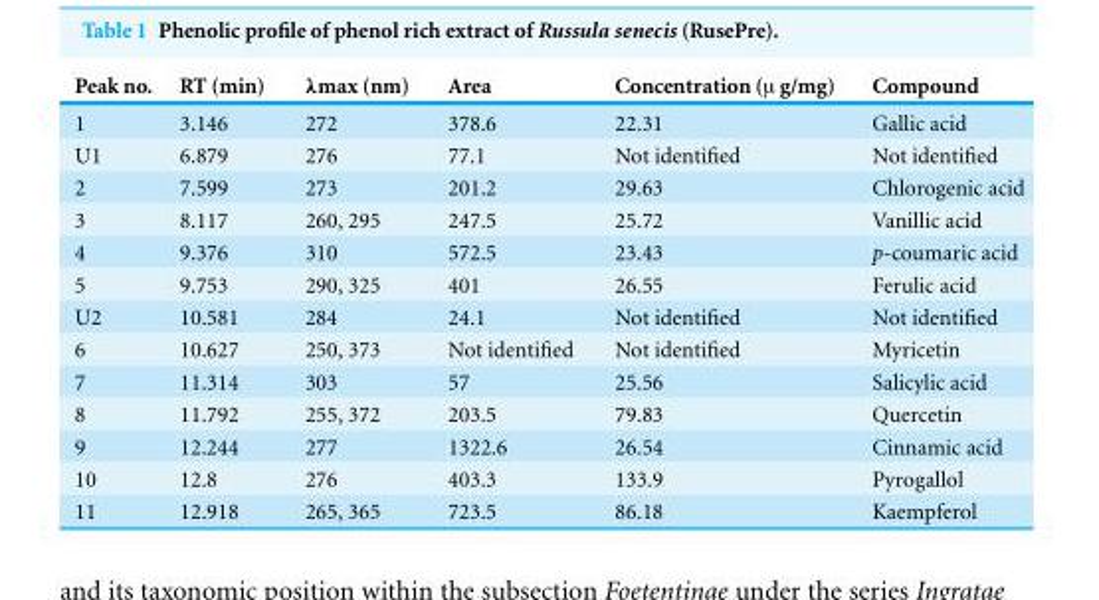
<table><thead><tr><td>Peak no.</td><td>RT (min)</td><td>λmax (nm)</td><td>Area</td><td>Concentration (µ g/mg)</td><td>Compound</td></tr></thead><tbody><tr><td>1</td><td>3.146</td><td>272</td><td>378.6</td><td>22.31</td><td>Gallic acid</td></tr><tr><td>U1</td><td>6.879</td><td>276</td><td>77.1</td><td>Not identified</td><td>Not identified</td></tr><tr><td>2</td><td>7.599</td><td>273</td><td>201.2</td><td>29.63</td><td>Chlorogenic acid</td></tr><tr><td>3</td><td>8.117</td><td>260, 295</td><td>247.5</td><td>25.72</td><td>Vanillic acid</td></tr><tr><td>4</td><td>9.376</td><td>310</td><td>572.5</td><td>23.43</td><td>p-coumaric acid</td></tr><tr><td>5</td><td>9.753</td><td>290, 325</td><td>401</td><td>26.55</td><td>Ferulic acid</td></tr><tr><td>U2</td><td>10.581</td><td>284</td><td>24.1</td><td>Not identified</td><td>Not identified</td></tr><tr><td>6</td><td>10.627</td><td>250, 373</td><td>Not identified</td><td>Not identified</td><td>Myricetin</td></tr><tr><td>7</td><td>11.314</td><td>303</td><td>57</td><td>25.56</td><td>Salicylic acid</td></tr><tr><td>8</td><td>11.792</td><td>255, 372</td><td>203.5</td><td>79.83</td><td>Quercetin</td></tr><tr><td>9</td><td>12.244</td><td>277</td><td>1322.6</td><td>26.54</td><td>Cinnamic acid</td></tr><tr><td>10</td><td>12.8</td><td>276</td><td>403.3</td><td>133.9</td><td>Pyrogallol</td></tr><tr><td>11</td><td>12.918</td><td>265, 365</td><td>723.5</td><td>86.18</td><td>Kaempferol</td></tr></tbody></table>